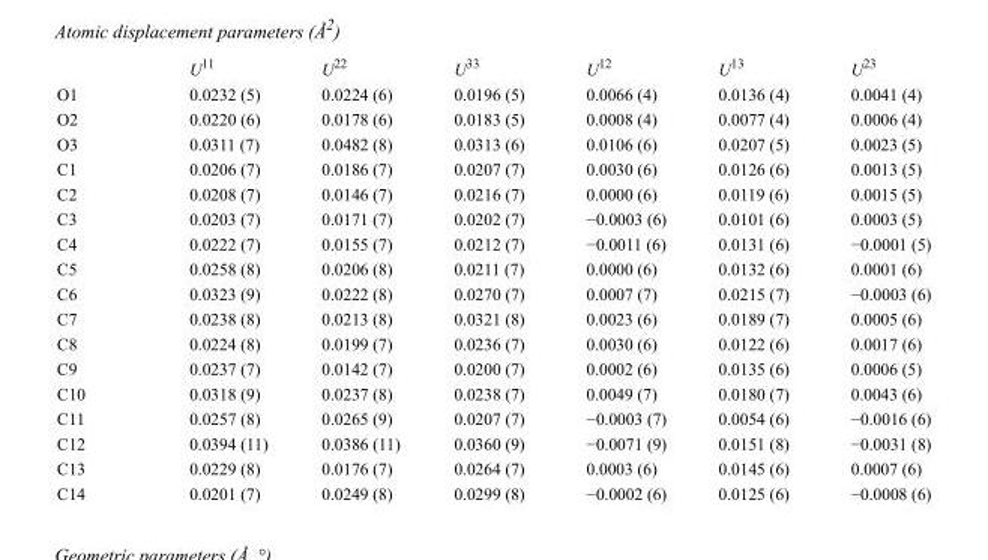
<table><thead><tr><td></td><td>U<sup>11</sup></td><td>U<sup>22</sup></td><td>U<sup>33</sup></td><td>U<sup>12</sup></td><td>U<sup>13</sup></td><td>U<sup>23</sup></td></tr></thead><tbody><tr><td>O1</td><td>0.0232 (5)</td><td>0.0224 (6)</td><td>0.0196 (5)</td><td>0.0066 (4)</td><td>0.0136 (4)</td><td>0.0041 (4)</td></tr><tr><td>O2</td><td>0.0220 (6)</td><td>0.0178 (6)</td><td>0.0183 (5)</td><td>0.0008 (4)</td><td>0.0077 (4)</td><td>0.0006 (4)</td></tr><tr><td>O3</td><td>0.0311 (7)</td><td>0.0482 (8)</td><td>0.0313 (6)</td><td>0.0106 (6)</td><td>0.0207 (5)</td><td>0.0023 (5)</td></tr><tr><td>C1</td><td>0.0206 (7)</td><td>0.0186 (7)</td><td>0.0207 (7)</td><td>0.0030 (6)</td><td>0.0126 (6)</td><td>0.0013 (5)</td></tr><tr><td>C2</td><td>0.0208 (7)</td><td>0.0146 (7)</td><td>0.0216 (7)</td><td>0.0000 (6)</td><td>0.0119 (6)</td><td>0.0015 (5)</td></tr><tr><td>C3</td><td>0.0203 (7)</td><td>0.0171 (7)</td><td>0.0202 (7)</td><td>−0.0003 (6)</td><td>0.0101 (6)</td><td>0.0003 (5)</td></tr><tr><td>C4</td><td>0.0222 (7)</td><td>0.0155 (7)</td><td>0.0212 (7)</td><td>−0.0011 (6)</td><td>0.0131 (6)</td><td>−0.0001 (5)</td></tr><tr><td>C5</td><td>0.0258 (8)</td><td>0.0206 (8)</td><td>0.0211 (7)</td><td>0.0000 (6)</td><td>0.0132 (6)</td><td>0.0001 (6)</td></tr><tr><td>C6</td><td>0.0323 (9)</td><td>0.0222 (8)</td><td>0.0270 (7)</td><td>0.0007 (7)</td><td>0.0215 (7)</td><td>−0.0003 (6)</td></tr><tr><td>C7</td><td>0.0238 (8)</td><td>0.0213 (8)</td><td>0.0321 (8)</td><td>0.0023 (6)</td><td>0.0189 (7)</td><td>0.0005 (6)</td></tr><tr><td>C8</td><td>0.0224 (8)</td><td>0.0199 (7)</td><td>0.0236 (7)</td><td>0.0030 (6)</td><td>0.0122 (6)</td><td>0.0017 (6)</td></tr><tr><td>C9</td><td>0.0237 (7)</td><td>0.0142 (7)</td><td>0.0200 (7)</td><td>0.0002 (6)</td><td>0.0135 (6)</td><td>0.0006 (5)</td></tr><tr><td>C10</td><td>0.0318 (9)</td><td>0.0237 (8)</td><td>0.0238 (7)</td><td>0.0049 (7)</td><td>0.0180 (7)</td><td>0.0043 (6)</td></tr><tr><td>C11</td><td>0.0257 (8)</td><td>0.0265 (9)</td><td>0.0207 (7)</td><td>−0.0003 (7)</td><td>0.0054 (6)</td><td>−0.0016 (6)</td></tr><tr><td>C12</td><td>0.0394 (11)</td><td>0.0386 (11)</td><td>0.0360 (9)</td><td>−0.0071 (9)</td><td>0.0151 (8)</td><td>−0.0031 (8)</td></tr><tr><td>C13</td><td>0.0229 (8)</td><td>0.0176 (7)</td><td>0.0264 (7)</td><td>0.0003 (6)</td><td>0.0145 (6)</td><td>0.0007 (6)</td></tr><tr><td>C14</td><td>0.0201 (7)</td><td>0.0249 (8)</td><td>0.0299 (8)</td><td>−0.0002 (6)</td><td>0.0125 (6)</td><td>−0.0008 (6)</td></tr></tbody></table>